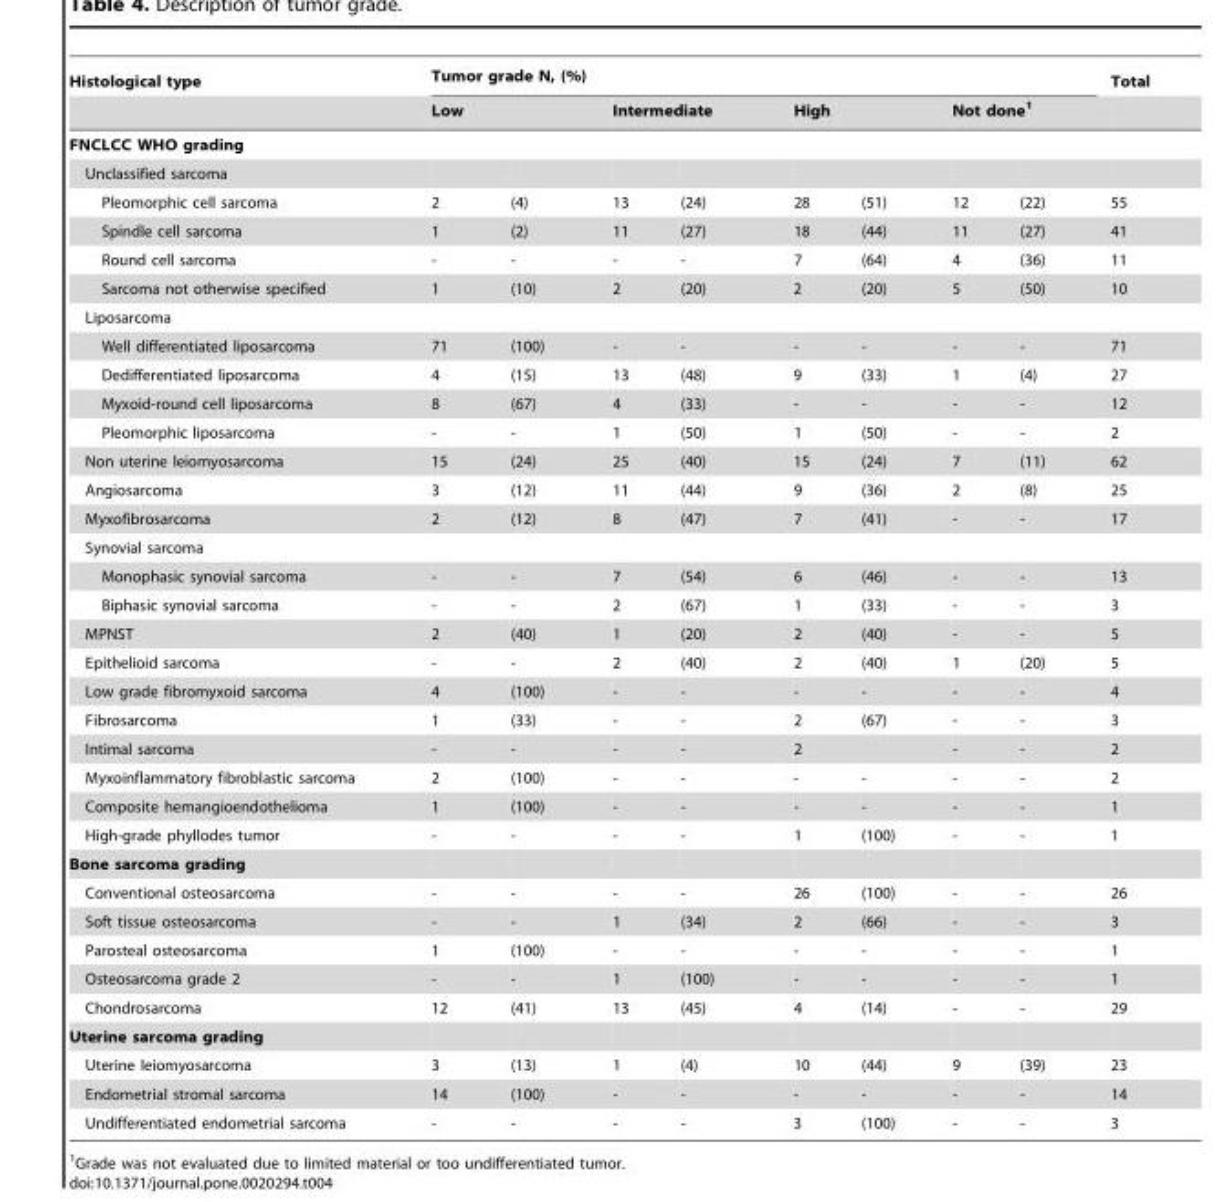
<table><thead><tr><td rowspan="3">Histological type FNCLCC WHO grading</td><td colspan="8">Tumor grade N, (%)</td><td rowspan="3">Total</td></tr><tr><td colspan="2">Low</td><td colspan="2">Intermediate</td><td colspan="2">High</td><td colspan="2">Not done<sup>1</sup></td></tr><tr><td></td><td></td><td></td><td></td><td></td><td></td><td></td><td></td></tr></thead><tbody><tr><td colspan="10">Unclassified sarcoma</td></tr><tr><td>Pleomorphic cell sarcoma</td><td>2</td><td>(4)</td><td>13</td><td>(24)</td><td>28</td><td>(51)</td><td>12</td><td>(22)</td><td>55</td></tr><tr><td>Spindle cell sarcoma</td><td>1</td><td>(2)</td><td>11</td><td>(27)</td><td>18</td><td>(44)</td><td>11</td><td>(27)</td><td>41</td></tr><tr><td>Round cell sarcoma</td><td>-</td><td>-</td><td>-</td><td>-</td><td>7</td><td>(64)</td><td>4</td><td>(36)</td><td>11</td></tr><tr><td>Sarcoma not otherwise specified</td><td>1</td><td>(10)</td><td>2</td><td>(20)</td><td>2</td><td>(20)</td><td>5</td><td>(50)</td><td>10</td></tr><tr><td colspan="10">Liposarcoma</td></tr><tr><td>Well differentiated liposarcoma</td><td>71</td><td>(100)</td><td>-</td><td>-</td><td>-</td><td>-</td><td>-</td><td>-</td><td>71</td></tr><tr><td>Dedifferentiated liposarcoma</td><td>4</td><td>(15)</td><td>13</td><td>(48)</td><td>9</td><td>(33)</td><td>1</td><td>(4)</td><td>27</td></tr><tr><td>Myxoid-round cell liposarcoma</td><td>8</td><td>(67)</td><td>4</td><td>(33)</td><td>-</td><td>-</td><td>-</td><td>-</td><td>12</td></tr><tr><td>Pleomorphic liposarcoma</td><td>-</td><td>-</td><td>1</td><td>(50)</td><td>1</td><td>(50)</td><td>-</td><td>-</td><td>2</td></tr><tr><td>Non uterine leiomyosarcoma</td><td>15</td><td>(24)</td><td>25</td><td>(40)</td><td>15</td><td>(24)</td><td>7</td><td>(11)</td><td>62</td></tr><tr><td>Angiosarcoma</td><td>3</td><td>(12)</td><td>11</td><td>(44)</td><td>9</td><td>(36)</td><td>2</td><td>(8)</td><td>25</td></tr><tr><td>Myxofibrosarcoma</td><td>2</td><td>(12)</td><td>8</td><td>(47)</td><td>7</td><td>(41)</td><td>-</td><td>-</td><td>17</td></tr><tr><td colspan="10">Synovial sarcoma</td></tr><tr><td>Monophasic synovial sarcoma</td><td>-</td><td>-</td><td>7</td><td>(54)</td><td>6</td><td>(46)</td><td>-</td><td>-</td><td>13</td></tr><tr><td>Biphasic synovial sarcoma</td><td>-</td><td>-</td><td>2</td><td>(67)</td><td>1</td><td>(33)</td><td>-</td><td>-</td><td>3</td></tr><tr><td>MPNST</td><td>2</td><td>(40)</td><td>1</td><td>(20)</td><td>2</td><td>(40)</td><td>-</td><td>-</td><td>5</td></tr><tr><td>Epithelioid sarcoma</td><td>-</td><td>-</td><td>2</td><td>(40)</td><td>2</td><td>(40)</td><td>1</td><td>(20)</td><td>5</td></tr><tr><td>Low grade fibromyxoid sarcoma</td><td>4</td><td>(100)</td><td>-</td><td>-</td><td>-</td><td>-</td><td>-</td><td>-</td><td>4</td></tr><tr><td>Fibrosarcoma</td><td>1</td><td>(33)</td><td>-</td><td>-</td><td>2</td><td>(67)</td><td>-</td><td>-</td><td>3</td></tr><tr><td>Intimal sarcoma</td><td>-</td><td>-</td><td>-</td><td>-</td><td>2</td><td></td><td>-</td><td>-</td><td>2</td></tr><tr><td>Myxoinflammatory fibroblastic sarcoma</td><td>2</td><td>(100)</td><td>-</td><td>-</td><td>-</td><td>-</td><td>-</td><td>-</td><td>2</td></tr><tr><td>Composite hemangioendothelioma</td><td>1</td><td>(100)</td><td>-</td><td>-</td><td>-</td><td>-</td><td>-</td><td>-</td><td>1</td></tr><tr><td>High-grade phyllodes tumor</td><td>-</td><td>-</td><td>-</td><td>-</td><td>1</td><td>(100)</td><td>-</td><td>-</td><td>1</td></tr><tr><td colspan="10">Bone sarcoma grading</td></tr><tr><td>Conventional osteosarcoma</td><td>-</td><td>-</td><td>-</td><td>-</td><td>26</td><td>(100)</td><td>-</td><td>-</td><td>26</td></tr><tr><td>Soft tissue osteosarcoma</td><td>-</td><td>-</td><td>1</td><td>(34)</td><td>2</td><td>(66)</td><td>-</td><td>-</td><td>3</td></tr><tr><td>Parosteal osteosarcoma</td><td>1</td><td>(100)</td><td>-</td><td>-</td><td>-</td><td>-</td><td>-</td><td>-</td><td>1</td></tr><tr><td>Osteosarcoma grade 2</td><td>-</td><td>-</td><td>1</td><td>(100)</td><td>-</td><td>-</td><td>-</td><td>-</td><td>1</td></tr><tr><td>Chondrosarcoma</td><td>12</td><td>(41)</td><td>13</td><td>(45)</td><td>4</td><td>(14)</td><td>-</td><td>-</td><td>29</td></tr><tr><td colspan="10">Uterine sarcoma grading</td></tr><tr><td>Uterine leiomyosarcoma</td><td>3</td><td>(13)</td><td>1</td><td>(4)</td><td>10</td><td>(44)</td><td>9</td><td>(39)</td><td>23</td></tr><tr><td>Endometrial stromal sarcoma</td><td>14</td><td>(100)</td><td>-</td><td>-</td><td>-</td><td>-</td><td>-</td><td>-</td><td>14</td></tr><tr><td>Undifferentiated endometrial sarcoma</td><td>-</td><td>-</td><td>-</td><td>-</td><td>3</td><td>(100)</td><td>-</td><td>-</td><td>3</td></tr></tbody></table>